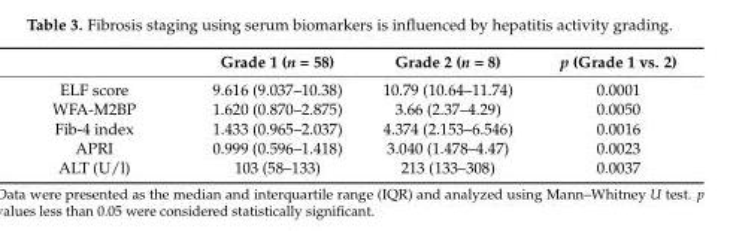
<table><thead><tr><td></td><td>Grade 1 (n = 58)</td><td>Grade 2 (n = 8)</td><td>p (Grade 1 vs. 2)</td></tr></thead><tbody><tr><td>ELF score</td><td>9.616 (9.037–10.38)</td><td>10.79 (10.64–11.74)</td><td>0.0001</td></tr><tr><td>WFA-M2BP</td><td>1.620 (0.870–2.875)</td><td>3.66 (2.37–4.29)</td><td>0.0050</td></tr><tr><td>Fib-4 index</td><td>1.433 (0.965–2.037)</td><td>4.374 (2.153–6.546)</td><td>0.0016</td></tr><tr><td>APRI</td><td>0.999 (0.596–1.418)</td><td>3.040 (1.478–4.47)</td><td>0.0023</td></tr><tr><td>ALT (U/l)</td><td>103 (58–133)</td><td>213 (133–308)</td><td>0.0037</td></tr></tbody></table>